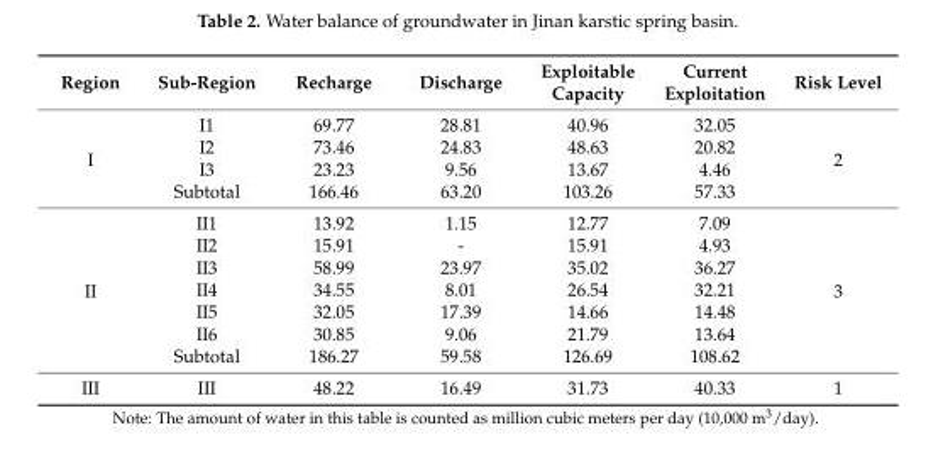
<table><thead><tr><td>Region</td><td>Sub-Region</td><td>Recharge</td><td>Discharge</td><td>Exploitable Capacity</td><td>Current Exploitation</td><td>Risk Level</td></tr></thead><tbody><tr><td rowspan="4">I</td><td>I1</td><td>69.77</td><td>28.81</td><td>40.96</td><td>32.05</td><td rowspan="4">2</td></tr><tr><td>I2</td><td>73.46</td><td>24.83</td><td>48.63</td><td>20.82</td></tr><tr><td>I3</td><td>23.23</td><td>9.56</td><td>13.67</td><td>4.46</td></tr><tr><td>Subtotal</td><td>166.46</td><td>63.20</td><td>103.26</td><td>57.33</td></tr><tr><td rowspan="7">II</td><td>II1</td><td>13.92</td><td>1.15</td><td>12.77</td><td>7.09</td><td rowspan="7">3</td></tr><tr><td>II2</td><td>15.91</td><td>-</td><td>15.91</td><td>4.93</td></tr><tr><td>II3</td><td>58.99</td><td>23.97</td><td>35.02</td><td>36.27</td></tr><tr><td>II4</td><td>34.55</td><td>8.01</td><td>26.54</td><td>32.21</td></tr><tr><td>II5</td><td>32.05</td><td>17.39</td><td>14.66</td><td>14.48</td></tr><tr><td>II6</td><td>30.85</td><td>9.06</td><td>21.79</td><td>13.64</td></tr><tr><td>Subtotal</td><td>186.27</td><td>59.58</td><td>126.69</td><td>108.62</td></tr><tr><td>III</td><td>III</td><td>48.22</td><td>16.49</td><td>31.73</td><td>40.33</td><td>1</td></tr></tbody></table>